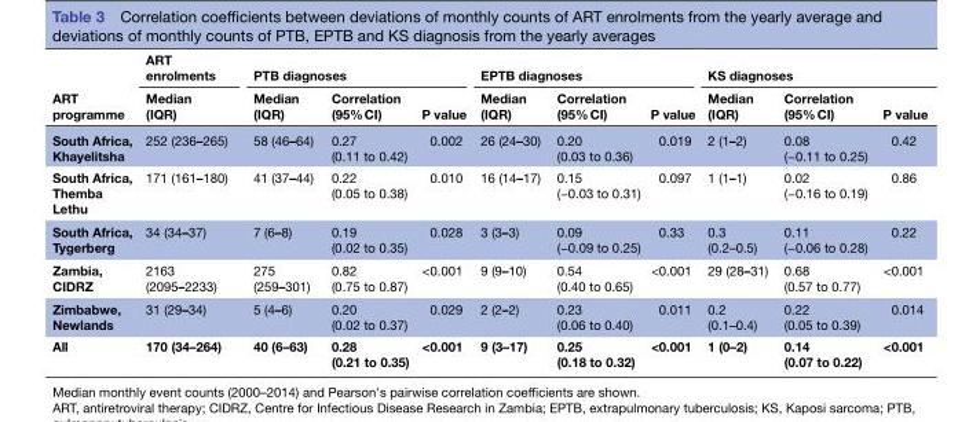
<table><thead><tr><td rowspan="2">ART programme</td><td rowspan="2">ART enrolments Median (IQR)</td><td colspan="3">PTB diagnoses</td><td colspan="3">EPTB diagnoses</td><td colspan="3">KS diagnoses</td></tr><tr><td>Median (IQR)</td><td>Correlation (95% CI)</td><td>P value</td><td>Median (IQR)</td><td>Correlation (95% CI)</td><td>P value</td><td>Median (IQR)</td><td>Correlation (95% CI)</td><td>P value</td></tr></thead><tbody><tr><td>South Africa, Khayelitsha</td><td>252 (236–265)</td><td>58 (46–64)</td><td>0.27 (0.11 to 0.42)</td><td>0.002</td><td>26 (24–30)</td><td>0.20 (0.03 to 0.36)</td><td>0.019</td><td>2 (1–2)</td><td>0.08 (−0.11 to 0.25)</td><td>0.42</td></tr><tr><td>South Africa, Themba Lethu</td><td>171 (161–180)</td><td>41 (37–44)</td><td>0.22 (0.05 to 0.38)</td><td>0.010</td><td>16 (14–17)</td><td>0.15 (−0.03 to 0.31)</td><td>0.097</td><td>1 (1–1)</td><td>0.02 (−0.16 to 0.19)</td><td>0.86</td></tr><tr><td>South Africa, Tygerberg</td><td>34 (34–37)</td><td>7 (6–8)</td><td>0.19 (0.02 to 0.35)</td><td>0.028</td><td>3 (3–3)</td><td>0.09 (−0.09 to 0.25)</td><td>0.33</td><td>0.3 (0.2–0.5)</td><td>0.11 (−0.06 to 0.28)</td><td>0.22</td></tr><tr><td>Zambia, CIDRZ</td><td>2163 (2095–2233)</td><td>275 (259–301)</td><td>0.82 (0.75 to 0.87)</td><td>&lt;0.001</td><td>9 (9–10)</td><td>0.54 (0.40 to 0.65)</td><td>&lt;0.001</td><td>29 (28–31)</td><td>0.68 (0.57 to 0.77)</td><td>&lt;0.001</td></tr><tr><td>Zimbabwe, Newlands</td><td>31 (29–34)</td><td>5 (4–6)</td><td>0.20 (0.02 to 0.37)</td><td>0.029</td><td>2 (2–2)</td><td>0.23 (0.06 to 0.40)</td><td>0.011</td><td>0.2 (0.1–0.4)</td><td>0.22 (0.05 to 0.39)</td><td>0.014</td></tr><tr><td>All</td><td>170 (34–264)</td><td>40 (6–63)</td><td>0.28 (0.21 to 0.35)</td><td>&lt;0.001</td><td>9 (3–17)</td><td>0.25 (0.18 to 0.32)</td><td>&lt;0.001</td><td>1 (0–2)</td><td>0.14 (0.07 to 0.22)</td><td>&lt;0.001</td></tr></tbody></table>